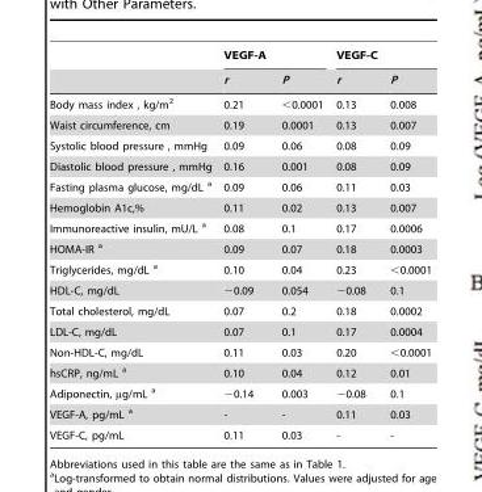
<table><thead><tr><td rowspan="2"></td><td colspan="2">VEGF-A</td><td colspan="2">VEGF-C</td></tr><tr><td>r</td><td>P</td><td>r</td><td>P</td></tr></thead><tbody><tr><td>Body mass index , kg/m<sup>2</sup></td><td>0.21</td><td>&lt;0.0001</td><td>0.13</td><td>0.008</td></tr><tr><td>Waist circumference, cm</td><td>0.19</td><td>0.0001</td><td>0.13</td><td>0.007</td></tr><tr><td>Systolic blood pressure , mmHg</td><td>0.09</td><td>0.06</td><td>0.08</td><td>0.09</td></tr><tr><td>Diastolic blood pressure , mmHg</td><td>0.16</td><td>0.001</td><td>0.08</td><td>0.09</td></tr><tr><td>Fasting plasma glucose, mg/dL a</td><td>0.09</td><td>0.06</td><td>0.11</td><td>0.03</td></tr><tr><td>Hemoglobin A1c,%</td><td>0.11</td><td>0.02</td><td>0.13</td><td>0.007</td></tr><tr><td>Immunoreactive insulin, mU/L a</td><td>0.08</td><td>0.1</td><td>0.17</td><td>0.0006</td></tr><tr><td>HOMA-IR a</td><td>0.09</td><td>0.07</td><td>0.18</td><td>0.0003</td></tr><tr><td>Triglycerides, mg/dL a</td><td>0.10</td><td>0.04</td><td>0.23</td><td>&lt;0.0001</td></tr><tr><td>HDL-C, mg/dL</td><td>−0.09</td><td>0.054</td><td>−0.08</td><td>0.1</td></tr><tr><td>Total cholesterol, mg/dL</td><td>0.07</td><td>0.2</td><td>0.18</td><td>0.0002</td></tr><tr><td>LDL-C, mg/dL</td><td>0.07</td><td>0.1</td><td>0.17</td><td>0.0004</td></tr><tr><td>Non-HDL-C, mg/dL</td><td>0.11</td><td>0.03</td><td>0.20</td><td>&lt;0.0001</td></tr><tr><td>hsCRP, ng/mL a</td><td>0.10</td><td>0.04</td><td>0.12</td><td>0.01</td></tr><tr><td>Adiponectin, µg/mL a</td><td>−0.14</td><td>0.003</td><td>−0.08</td><td>0.1</td></tr><tr><td>VEGF-A, pg/mL a</td><td>-</td><td>-</td><td>0.11</td><td>0.03</td></tr><tr><td>VEGF-C, pg/mL</td><td>0.11</td><td>0.03</td><td>-</td><td>-</td></tr></tbody></table>